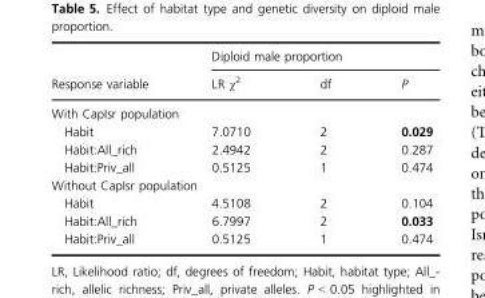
<table><thead><tr><td rowspan="2">Response variable</td><td colspan="3">Diploid male proportion</td></tr><tr><td>LR χ<sup>2</sup></td><td>df</td><td>P</td></tr></thead><tbody><tr><td colspan="4">With CapIsr population</td></tr><tr><td>Habit</td><td>7.0710</td><td>2</td><td>0.029</td></tr><tr><td>Habit:All_rich</td><td>2.4942</td><td>2</td><td>0.287</td></tr><tr><td>Habit:Priv_all</td><td>0.5125</td><td>1</td><td>0.474</td></tr><tr><td colspan="4">Without CapIsr population</td></tr><tr><td>Habit</td><td>4.5108</td><td>2</td><td>0.104</td></tr><tr><td>Habit:All_rich</td><td>6.7997</td><td>2</td><td>0.033</td></tr><tr><td>Habit:Priv_all</td><td>0.5125</td><td>1</td><td>0.474</td></tr></tbody></table>